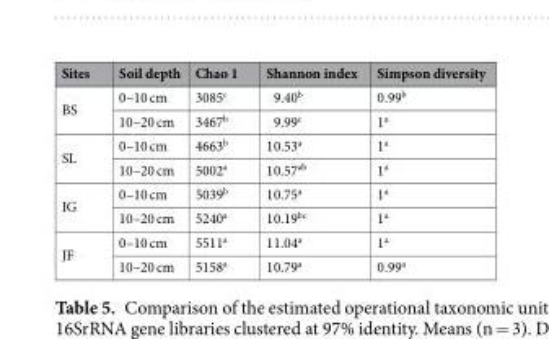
<table><thead><tr><td>Sites</td><td>Soil depth</td><td>Chao 1</td><td>Shannon index</td><td>Simpson diversity</td></tr></thead><tbody><tr><td rowspan="2">BS</td><td>0–10 cm</td><td>3085<sup>c</sup></td><td>9.40<sup>b</sup></td><td>0.99<sup>b</sup></td></tr><tr><td>10–20 cm</td><td>3467<sup>b</sup></td><td>9.99<sup>c</sup></td><td>1<sup>a</sup></td></tr><tr><td rowspan="2">SL</td><td>0–10 cm</td><td>4663<sup>b</sup></td><td>10.53<sup>a</sup></td><td>1<sup>a</sup></td></tr><tr><td>10–20 cm</td><td>5002<sup>a</sup></td><td>10.57<sup>ab</sup></td><td>1<sup>a</sup></td></tr><tr><td rowspan="2">IG</td><td>0–10 cm</td><td>5039<sup>b</sup></td><td>10.75<sup>a</sup></td><td>1<sup>a</sup></td></tr><tr><td>10–20 cm</td><td>5240<sup>a</sup></td><td>10.19<sup>bc</sup></td><td>1<sup>a</sup></td></tr><tr><td rowspan="2">JF</td><td>0–10 cm</td><td>5511<sup>a</sup></td><td>11.04<sup>a</sup></td><td>1<sup>a</sup></td></tr><tr><td>10–20 cm</td><td>5158<sup>a</sup></td><td>10.79<sup>a</sup></td><td>0.99<sup>a</sup></td></tr></tbody></table>